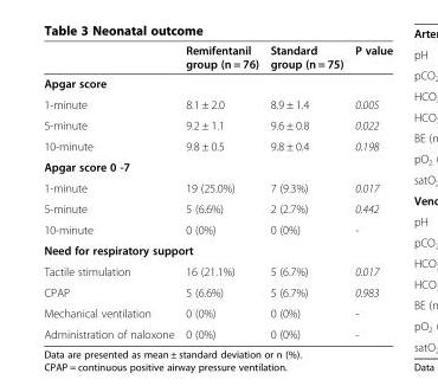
<table><thead><tr><td></td><td>Remifentanil group (n = 76)</td><td>Standard group (n = 75)</td><td>P value</td></tr></thead><tbody><tr><td colspan="4">Apgar score</td></tr><tr><td>1-minute</td><td>8.1 ± 2.0</td><td>8.9 ± 1.4</td><td>0.005</td></tr><tr><td>5-minute</td><td>9.2 ± 1.1</td><td>9.6 ± 0.8</td><td>0.022</td></tr><tr><td>10-minute</td><td>9.8 ± 0.5</td><td>9.8 ± 0.4</td><td>0.198</td></tr><tr><td colspan="4">Apgar score 0 -7</td></tr><tr><td>1-minute</td><td>19 (25.0%)</td><td>7 (9.3%)</td><td>0.017</td></tr><tr><td>5-minute</td><td>5 (6.6%)</td><td>2 (2.7%)</td><td>0.442</td></tr><tr><td>10-minute</td><td>0 (0%)</td><td>0 (0%)</td><td>-</td></tr><tr><td colspan="4">Need for respiratory support</td></tr><tr><td>Tactile stimulation</td><td>16 (21.1%)</td><td>5 (6.7%)</td><td>0.017</td></tr><tr><td>CPAP</td><td>5 (6.6%)</td><td>5 (6.7%)</td><td>0.983</td></tr><tr><td>Mechanical ventilation</td><td>0 (0%)</td><td>0 (0%)</td><td>-</td></tr><tr><td>Administration of naloxone</td><td>0 (0%)</td><td>0 (0%)</td><td>-</td></tr></tbody></table>